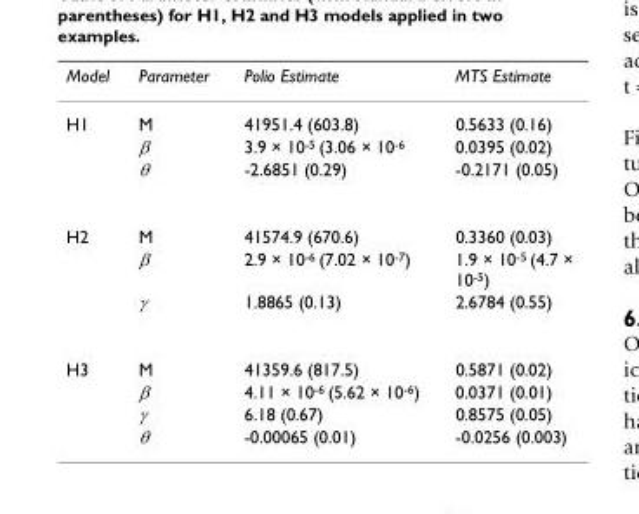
<table><thead><tr><td>Model</td><td>Parameter</td><td>Polio Estimate</td><td>MTS Estimate</td></tr></thead><tbody><tr><td rowspan="3">H1</td><td>M</td><td>41951.4 (603.8)</td><td>0.5633 (0.16)</td></tr><tr><td>β</td><td>3.9 × 10<sup>-5</sup> (3.06 × 10<sup>-6</sup></td><td>0.0395 (0.02)</td></tr><tr><td>θ</td><td>-2.6851 (0.29)</td><td>-0.2171 (0.05)</td></tr><tr><td rowspan="3">H2</td><td>M</td><td>41574.9 (670.6)</td><td>0.3360 (0.03)</td></tr><tr><td>β</td><td>2.9 × 10<sup>-6</sup> (7.02 × 10<sup>-7</sup>)</td><td>1.9 × 10<sup>-5</sup> (4.7 × 10<sup>-5</sup>)</td></tr><tr><td>γ</td><td>1.8865 (0.13)</td><td>2.6784 (0.55)</td></tr><tr><td rowspan="4">H3</td><td>M</td><td>41359.6 (817.5)</td><td>0.5871 (0.02)</td></tr><tr><td>β</td><td>4.11 × 10<sup>-6</sup> (5.62 × 10<sup>-6</sup>)</td><td>0.0371 (0.01)</td></tr><tr><td>γ</td><td>6.18 (0.67)</td><td>0.8575 (0.05)</td></tr><tr><td>θ</td><td>-0.00065 (0.01)</td><td>-0.0256 (0.003)</td></tr></tbody></table>